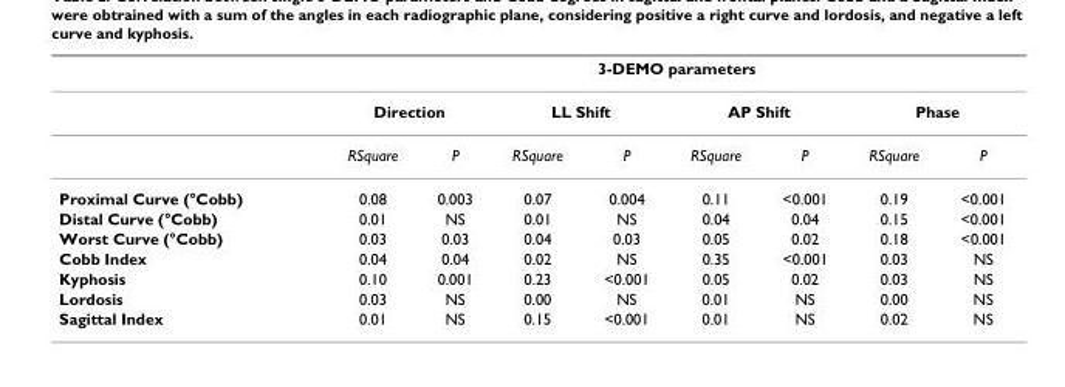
<table><thead><tr><td rowspan="3"></td><td colspan="8">3-DEMO parameters</td></tr><tr><td colspan="2">Direction</td><td colspan="2">LL Shift</td><td colspan="2">AP Shift</td><td colspan="2">Phase</td></tr><tr><td>RSquare</td><td>P</td><td>RSquare</td><td>P</td><td>RSquare</td><td>P</td><td>RSquare</td><td>P</td></tr></thead><tbody><tr><td>Proximal Curve (°Cobb)</td><td>0.08</td><td>0.003</td><td>0.07</td><td>0.004</td><td>0.11</td><td>&lt;0.001</td><td>0.19</td><td>&lt;0.001</td></tr><tr><td>Distal Curve (°Cobb)</td><td>0.01</td><td>NS</td><td>0.01</td><td>NS</td><td>0.04</td><td>0.04</td><td>0.15</td><td>&lt;0.001</td></tr><tr><td>Worst Curve (°Cobb)</td><td>0.03</td><td>0.03</td><td>0.04</td><td>0.03</td><td>0.05</td><td>0.02</td><td>0.18</td><td>&lt;0.001</td></tr><tr><td>Cobb Index</td><td>0.04</td><td>0.04</td><td>0.02</td><td>NS</td><td>0.35</td><td>&lt;0.001</td><td>0.03</td><td>NS</td></tr><tr><td>Kyphosis</td><td>0.10</td><td>0.001</td><td>0.23</td><td>&lt;0.001</td><td>0.05</td><td>0.02</td><td>0.03</td><td>NS</td></tr><tr><td>Lordosis</td><td>0.03</td><td>NS</td><td>0.00</td><td>NS</td><td>0.01</td><td>NS</td><td>0.00</td><td>NS</td></tr><tr><td>Sagittal Index</td><td>0.01</td><td>NS</td><td>0.15</td><td>&lt;0.001</td><td>0.01</td><td>NS</td><td>0.02</td><td>NS</td></tr></tbody></table>